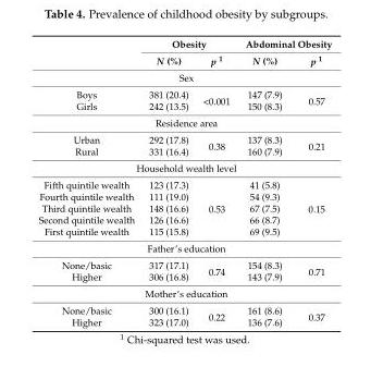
<table><thead><tr><td rowspan="2"></td><td colspan="2">Obesity</td><td colspan="2">Abdominal Obesity</td></tr><tr><td>N (%)</td><td>p <sup>1</sup></td><td>N (%)</td><td>p <sup>1</sup></td></tr></thead><tbody><tr><td colspan="5">Sex</td></tr><tr><td>Boys</td><td>381 (20.4)</td><td rowspan="2">&lt;0.001</td><td>147 (7.9)</td><td rowspan="2">0.57</td></tr><tr><td>Girls</td><td>242 (13.5)</td><td>150 (8.3)</td></tr><tr><td colspan="5">Residence area</td></tr><tr><td>Urban</td><td>292 (17.8)</td><td rowspan="2">0.38</td><td>137 (8.3)</td><td rowspan="2">0.21</td></tr><tr><td>Rural</td><td>331 (16.4)</td><td>160 (7.9)</td></tr><tr><td colspan="5">Household wealth level</td></tr><tr><td>Fifth quintile wealth</td><td>123 (17.3)</td><td rowspan="5">0.53</td><td>41 (5.8)</td><td rowspan="5">0.15</td></tr><tr><td>Fourth quintile wealth</td><td>111 (19.0)</td><td>54 (9.3)</td></tr><tr><td>Third quintile wealth</td><td>148 (16.6)</td><td>67 (7.5)</td></tr><tr><td>Second quintile wealth</td><td>126 (16.6)</td><td>66 (8.7)</td></tr><tr><td>First quintile wealth</td><td>115 (15.8)</td><td>69 (9.5)</td></tr><tr><td colspan="5">Father’s education</td></tr><tr><td>None/basic</td><td>317 (17.1)</td><td rowspan="2">0.74</td><td>154 (8.3)</td><td rowspan="2">0.71</td></tr><tr><td>Higher</td><td>306 (16.8)</td><td>143 (7.9)</td></tr><tr><td colspan="5">Mother’s education</td></tr><tr><td>None/basic</td><td>300 (16.1)</td><td rowspan="2">0.22</td><td>161 (8.6)</td><td rowspan="2">0.37</td></tr><tr><td>Higher</td><td>323 (17.0)</td><td>136 (7.6)</td></tr></tbody></table>